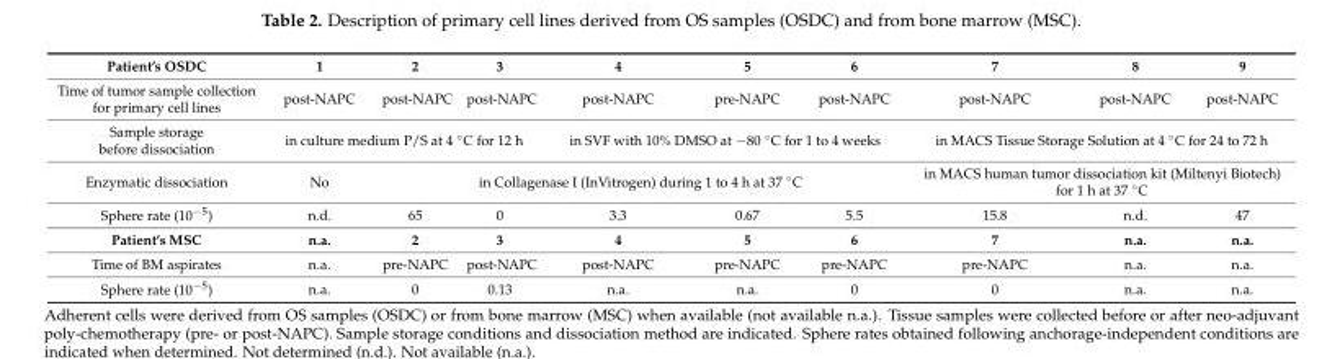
<table><tbody><tr><td>Patient’s OSDC</td><td>1</td><td>2</td><td>3</td><td>4</td><td>5</td><td>6</td><td>7</td><td>8</td><td>9</td></tr><tr><td>Time of tumor sample collection for primary cell lines</td><td>post-NAPC</td><td>post-NAPC</td><td>post-NAPC</td><td>post-NAPC</td><td>pre-NAPC</td><td>post-NAPC</td><td>post-NAPC</td><td>post-NAPC</td><td>post-NAPC</td></tr><tr><td>Sample storage before dissociation</td><td colspan="3">in culture medium P/S at 4 ◦C for 12 h</td><td colspan="3">in SVF with 10% DMSO at −80 ◦C for 1 to 4 weeks</td><td colspan="3">in MACS Tissue Storage Solution at 4 ◦C for 24 to 72 h</td></tr><tr><td>Enzymatic dissociation</td><td>No</td><td colspan="5">in Collagenase I (InVitrogen) during 1 to 4 h at 37 ◦C</td><td colspan="3">in MACS human tumor dissociation kit (Miltenyi Biotech) for 1 h at 37 ◦C</td></tr><tr><td>Sphere rate (10<sup>−5</sup>)</td><td>n.d.</td><td>65</td><td>0</td><td>3.3</td><td>0.67</td><td>5.5</td><td>15.8</td><td>n.d.</td><td>47</td></tr><tr><td>Patient’s MSC</td><td>n.a.</td><td>2</td><td>3</td><td>4</td><td>5</td><td>6</td><td>7</td><td>n.a.</td><td>n.a.</td></tr><tr><td>Time of BM aspirates</td><td>n.a.</td><td>pre-NAPC</td><td>post-NAPC</td><td>post-NAPC</td><td>pre-NAPC</td><td>pre-NAPC</td><td>pre-NAPC</td><td>n.a.</td><td>n.a.</td></tr><tr><td>Sphere rate (10<sup>−5</sup>)</td><td>n.a.</td><td>0</td><td>0.13</td><td>n.a.</td><td>n.a.</td><td>0</td><td>0</td><td>n.a.</td><td>n.a.</td></tr></tbody></table>